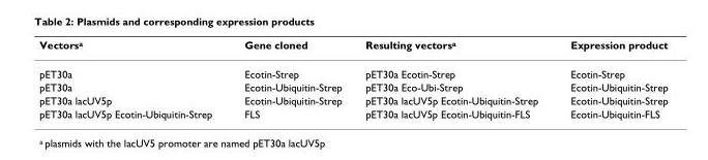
<table><thead><tr><td>Vectors<sup>a</sup></td><td>Gene cloned</td><td>Resulting vectors<sup>a</sup></td><td>Expression product</td></tr></thead><tbody><tr><td>pET30a</td><td>Ecotin-Strep</td><td>pET30a Ecotin-Strep</td><td>Ecotin-Strep</td></tr><tr><td>pET30a</td><td>Ecotin-Ubiquitin-Strep</td><td>pET30a Eco-Ubi-Strep</td><td>Ecotin-Ubiquitin-Strep</td></tr><tr><td>pET30a lacUV5p</td><td>Ecotin-Ubiquitin-Strep</td><td>pET30a lacUV5p Ecotin-Ubiquitin-Strep</td><td>Ecotin-Ubiquitin-Strep</td></tr><tr><td>pET30a lacUV5p Ecotin-Ubiquitin-Strep</td><td>FLS</td><td>pET30a lacUV5p Ecotin-Ubiquitin-FLS</td><td>Ecotin-Ubiquitin-FLS</td></tr></tbody></table>